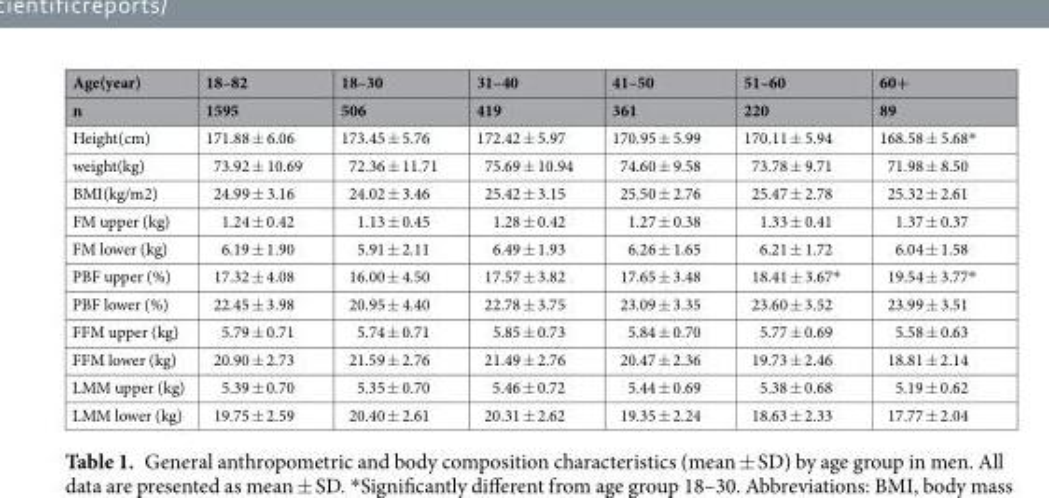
<table><thead><tr><td rowspan="2">Age(year) n</td><td rowspan="2">18–82 1595</td><td rowspan="2">18–30 506</td><td rowspan="2">31–40 419</td><td rowspan="2">41–50 361</td><td rowspan="2">51–60 220</td><td rowspan="2">60+ 89</td></tr><tr></tr></thead><tbody><tr><td>Height(cm)</td><td>171.88 ± 6.06</td><td>173.45 ± 5.76</td><td>172.42 ± 5.97</td><td>170.95 ± 5.99</td><td>170.11 ± 5.94</td><td>168.58 ± 5.68*</td></tr><tr><td>weight(kg)</td><td>73.92 ± 10.69</td><td>72.36 ± 11.71</td><td>75.69 ± 10.94</td><td>74.60 ± 9.58</td><td>73.78 ± 9.71</td><td>71.98 ± 8.50</td></tr><tr><td>BMI(kg/m2)</td><td>24.99 ± 3.16</td><td>24.02 ± 3.46</td><td>25.42 ± 3.15</td><td>25.50 ± 2.76</td><td>25.47 ± 2.78</td><td>25.32 ± 2.61</td></tr><tr><td>FM upper (kg)</td><td>1.24 ± 0.42</td><td>1.13 ± 0.45</td><td>1.28 ± 0.42</td><td>1.27 ± 0.38</td><td>1.33 ± 0.41</td><td>1.37 ± 0.37</td></tr><tr><td>FM lower (kg)</td><td>6.19 ± 1.90</td><td>5.91 ± 2.11</td><td>6.49 ± 1.93</td><td>6.26 ± 1.65</td><td>6.21 ± 1.72</td><td>6.04 ± 1.58</td></tr><tr><td>PBF upper (%)</td><td>17.32 ± 4.08</td><td>16.00 ± 4.50</td><td>17.57 ± 3.82</td><td>17.65 ± 3.48</td><td>18.41 ± 3.67*</td><td>19.54 ± 3.77*</td></tr><tr><td>PBF lower (%)</td><td>22.45 ± 3.98</td><td>20.95 ± 4.40</td><td>22.78 ± 3.75</td><td>23.09 ± 3.35</td><td>23.60 ± 3.52</td><td>23.99 ± 3.51</td></tr><tr><td>FFM upper (kg)</td><td>5.79 ± 0.71</td><td>5.74 ± 0.71</td><td>5.85 ± 0.73</td><td>5.84 ± 0.70</td><td>5.77 ± 0.69</td><td>5.58 ± 0.63</td></tr><tr><td>FFM lower (kg)</td><td>20.90 ± 2.73</td><td>21.59 ± 2.76</td><td>21.49 ± 2.76</td><td>20.47 ± 2.36</td><td>19.73 ± 2.46</td><td>18.81 ± 2.14</td></tr><tr><td>LMM upper (kg)</td><td>5.39 ± 0.70</td><td>5.35 ± 0.70</td><td>5.46 ± 0.72</td><td>5.44 ± 0.69</td><td>5.38 ± 0.68</td><td>5.19 ± 0.62</td></tr><tr><td>LMM lower (kg)</td><td>19.75 ± 2.59</td><td>20.40 ± 2.61</td><td>20.31 ± 2.62</td><td>19.35 ± 2.24</td><td>18.63 ± 2.33</td><td>17.77 ± 2.04</td></tr></tbody></table>